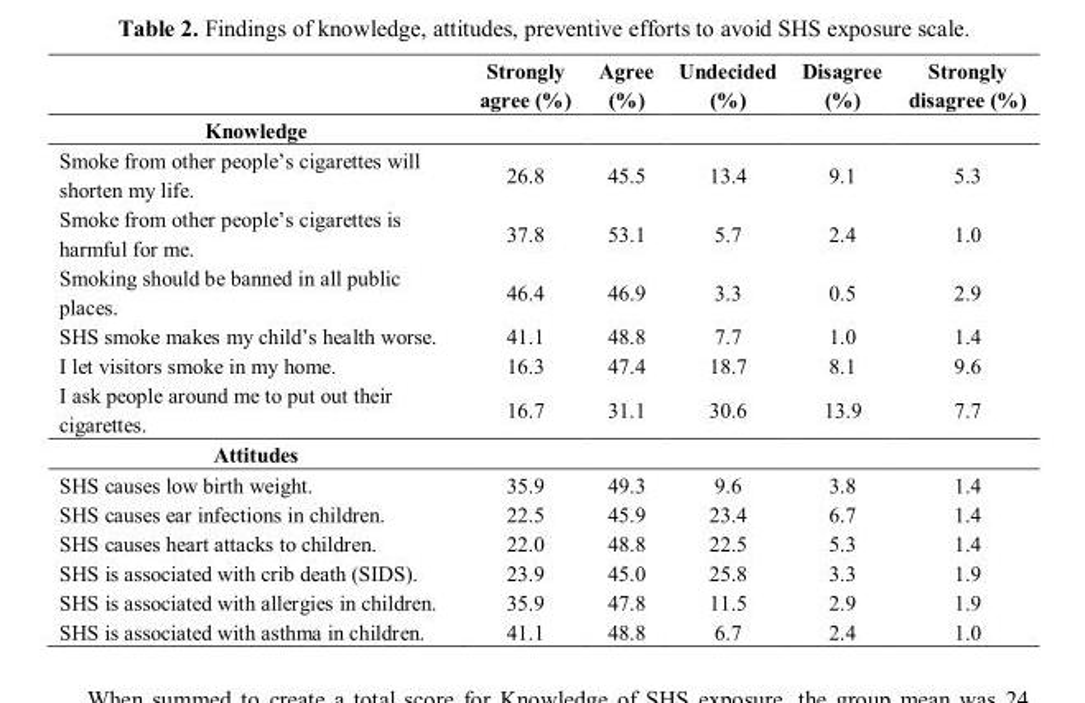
<table><thead><tr><td></td><td>Strongly agree (%)</td><td>Agree (%)</td><td>Undecided (%)</td><td>Disagree (%)</td><td>Strongly disagree (%)</td></tr></thead><tbody><tr><td colspan="6">Knowledge</td></tr><tr><td>Smoke from other people’s cigarettes will shorten my life.</td><td>26.8</td><td>45.5</td><td>13.4</td><td>9.1</td><td>5.3</td></tr><tr><td>Smoke from other people’s cigarettes is harmful for me.</td><td>37.8</td><td>53.1</td><td>5.7</td><td>2.4</td><td>1.0</td></tr><tr><td>Smoking should be banned in all public places.</td><td>46.4</td><td>46.9</td><td>3.3</td><td>0.5</td><td>2.9</td></tr><tr><td>SHS smoke makes my child’s health worse.</td><td>41.1</td><td>48.8</td><td>7.7</td><td>1.0</td><td>1.4</td></tr><tr><td>I let visitors smoke in my home.</td><td>16.3</td><td>47.4</td><td>18.7</td><td>8.1</td><td>9.6</td></tr><tr><td>I ask people around me to put out their cigarettes.</td><td>16.7</td><td>31.1</td><td>30.6</td><td>13.9</td><td>7.7</td></tr><tr><td colspan="6">Attitudes</td></tr><tr><td>SHS causes low birth weight.</td><td>35.9</td><td>49.3</td><td>9.6</td><td>3.8</td><td>1.4</td></tr><tr><td>SHS causes ear infections in children.</td><td>22.5</td><td>45.9</td><td>23.4</td><td>6.7</td><td>1.4</td></tr><tr><td>SHS causes heart attacks to children.</td><td>22.0</td><td>48.8</td><td>22.5</td><td>5.3</td><td>1.4</td></tr><tr><td>SHS is associated with crib death (SIDS).</td><td>23.9</td><td>45.0</td><td>25.8</td><td>3.3</td><td>1.9</td></tr><tr><td>SHS is associated with allergies in children.</td><td>35.9</td><td>47.8</td><td>11.5</td><td>2.9</td><td>1.9</td></tr><tr><td>SHS is associated with asthma in children.</td><td>41.1</td><td>48.8</td><td>6.7</td><td>2.4</td><td>1.0</td></tr></tbody></table>